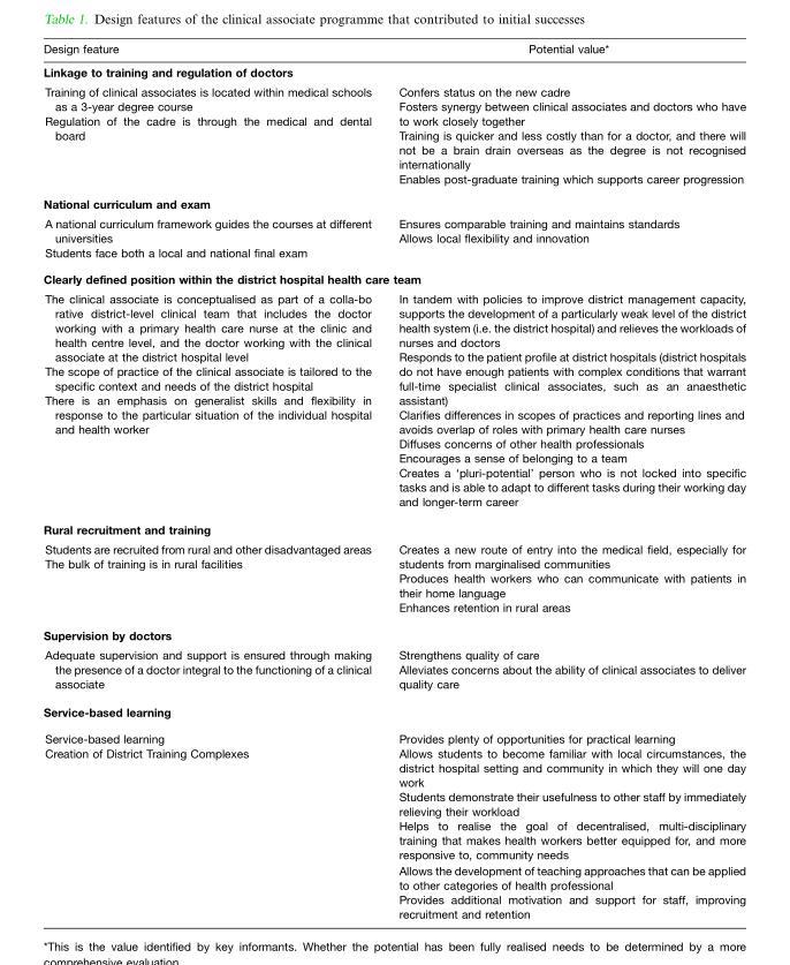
<table><thead><tr><td>Design feature</td><td>Potential value*</td></tr></thead><tbody><tr><td colspan="2">Linkage to training and regulation of doctors</td></tr><tr><td>Training of clinical associates is located within medical schools as a 3-year degree course Regulation of the cadre is through the medical and dental board</td><td>Confers status on the new cadre Fosters synergy between clinical associates and doctors who have to work closely together Training is quicker and less costly than for a doctor, and there will not be a brain drain overseas as the degree is not recognised internationally Enables post-graduate training which supports career progression</td></tr><tr><td colspan="2">National curriculum and exam</td></tr><tr><td>A national curriculum framework guides the courses at different universities Students face both a local and national final exam</td><td>Ensures comparable training and maintains standards Allows local flexibility and innovation</td></tr><tr><td colspan="2">Clearly defined position within the district hospital health care team</td></tr><tr><td>The clinical associate is conceptualised as part of a colla-bo rative district-level clinical team that includes the doctor working with a primary health care nurse at the clinic and health centre level, and the doctor working with the clinical associate at the district hospital level The scope of practice of the clinical associate is tailored to the specific context and needs of the district hospital There is an emphasis on generalist skills and flexibility in response to the particular situation of the individual hospital and health worker</td><td>In tandem with policies to improve district management capacity, supports the development of a particularly weak level of the district health system (i.e. the district hospital) and relieves the workloads of nurses and doctors Responds to the patient profile at district hospitals (district hospitals do not have enough patients with complex conditions that warrant full-time specialist clinical associates, such as an anaesthetic assistant) Clarifies differences in scopes of practices and reporting lines and avoids overlap of roles with primary health care nurses Diffuses concerns of other health professionals Encourages a sense of belonging to a team Creates a ‘pluri-potential’ person who is not locked into specific tasks and is able to adapt to different tasks during their working day and longer-term career</td></tr><tr><td colspan="2">Rural recruitment and training</td></tr><tr><td>Students are recruited from rural and other disadvantaged areas The bulk of training is in rural facilities</td><td>Creates a new route of entry into the medical field, especially for students from marginalised communities Produces health workers who can communicate with patients in their home language Enhances retention in rural areas</td></tr><tr><td colspan="2">Supervision by doctors</td></tr><tr><td>Adequate supervision and support is ensured through making the presence of a doctor integral to the functioning of a clinical associate</td><td>Strengthens quality of care Alleviates concerns about the ability of clinical associates to deliver quality care</td></tr><tr><td colspan="2">Service-based learning</td></tr><tr><td>Service-based learning Creation of District Training Complexes</td><td>Provides plenty of opportunities for practical learning Allows students to become familiar with local circumstances, the district hospital setting and community in which they will one day work Students demonstrate their usefulness to other staff by immediately relieving their workload Helps to realise the goal of decentralised, multi-disciplinary training that makes health workers better equipped for, and more responsive to, community needs Allows the development of teaching approaches that can be applied to other categories of health professional Provides additional motivation and support for staff, improving recruitment and retention</td></tr></tbody></table>